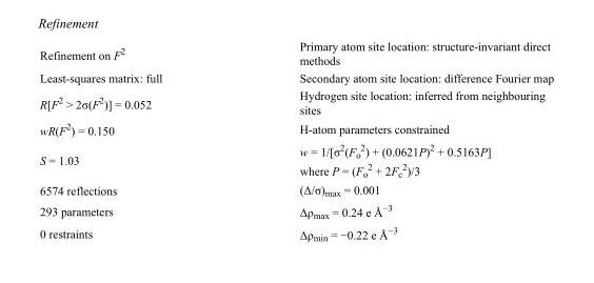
<table><tbody><tr><td>Refinement on F<sup>2</sup></td><td>Primary atom site location: structure-invariant direct methods</td></tr><tr><td>Least-squares matrix: full</td><td>Secondary atom site location: difference Fourier map</td></tr><tr><td>R[F<sup>2</sup> &gt; 2σ(F<sup>2</sup>)] = 0.052</td><td>Hydrogen site location: inferred from neighbouring sites</td></tr><tr><td>wR(F<sup>2</sup>) = 0.150</td><td>H-atom parameters constrained</td></tr><tr><td>S = 1.03</td><td>w = 1/[σ<sup>2</sup>(F<sub>o</sub> <sup>2</sup>) + (0.0621P)<sup>2</sup> + 0.5163P] where P = (F<sub>o</sub> <sup>2</sup> + 2F<sub>c</sub> <sup>2</sup>)/3</td></tr><tr><td>6574 reflections</td><td>(Δ/σ)<sub>max</sub> = 0.001</td></tr><tr><td>293 parameters</td><td>Δρ<sub>max</sub> = 0.24 e Å<sup>−3</sup></td></tr><tr><td>0 restraints</td><td>Δρ<sub>min</sub> = −0.22 e Å<sup>−3</sup></td></tr></tbody></table>